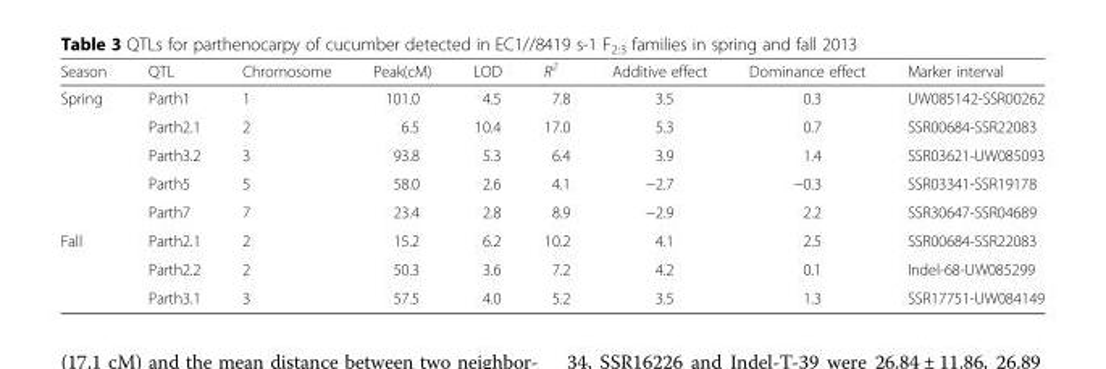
<table><thead><tr><td>Season</td><td>QTL</td><td>Chromosome</td><td>Peak(cM)</td><td>LOD</td><td>R<sup>2</sup></td><td>Additive effect</td><td>Dominance effect</td><td>Marker interval</td></tr></thead><tbody><tr><td rowspan="5">Spring</td><td>Parth1</td><td>1</td><td>101.0</td><td>4.5</td><td>7.8</td><td>3.5</td><td>0.3</td><td>UW085142-SSR00262</td></tr><tr><td>Parth2.1</td><td>2</td><td>6.5</td><td>10.4</td><td>17.0</td><td>5.3</td><td>0.7</td><td>SSR00684-SSR22083</td></tr><tr><td>Parth3.2</td><td>3</td><td>93.8</td><td>5.3</td><td>6.4</td><td>3.9</td><td>1.4</td><td>SSR03621-UW085093</td></tr><tr><td>Parth5</td><td>5</td><td>58.0</td><td>2.6</td><td>4.1</td><td>−2.7</td><td>−0.3</td><td>SSR03341-SSR19178</td></tr><tr><td>Parth7</td><td>7</td><td>23.4</td><td>2.8</td><td>8.9</td><td>−2.9</td><td>2.2</td><td>SSR30647-SSR04689</td></tr><tr><td rowspan="3">Fall</td><td>Parth2.1</td><td>2</td><td>15.2</td><td>6.2</td><td>10.2</td><td>4.1</td><td>2.5</td><td>SSR00684-SSR22083</td></tr><tr><td>Parth2.2</td><td>2</td><td>50.3</td><td>3.6</td><td>7.2</td><td>4.2</td><td>0.1</td><td>Indel-68-UW085299</td></tr><tr><td>Parth3.1</td><td>3</td><td>57.5</td><td>4.0</td><td>5.2</td><td>3.5</td><td>1.3</td><td>SSR17751-UW084149</td></tr></tbody></table>